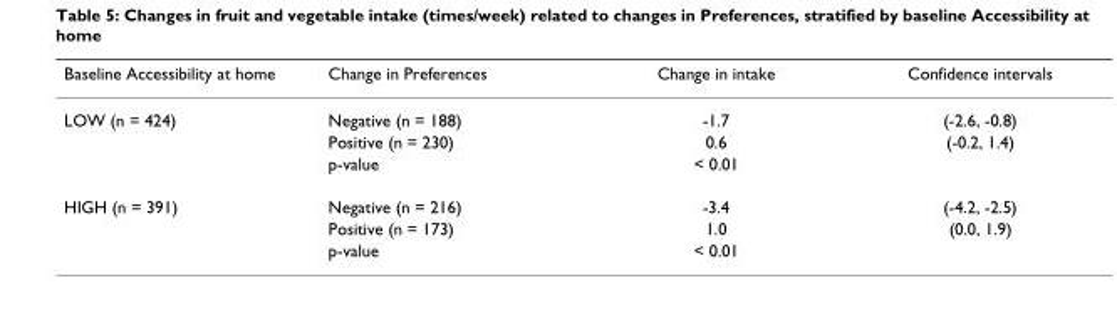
<table><thead><tr><td>Baseline Accessibility at home</td><td>Change in Preferences</td><td>Change in intake</td><td>Confidence intervals</td></tr></thead><tbody><tr><td rowspan="3">LOW (n = 424)</td><td>Negative (n = 188)</td><td>-1.7</td><td>(-2.6, -0.8)</td></tr><tr><td>Positive (n = 230)</td><td>0.6</td><td>(-0.2, 1.4)</td></tr><tr><td>p-value</td><td>&lt; 0.01</td><td></td></tr><tr><td rowspan="3">HIGH (n = 391)</td><td>Negative (n = 216)</td><td>-3.4</td><td>(-4.2, -2.5)</td></tr><tr><td>Positive (n = 173)</td><td>1.0</td><td>(0.0, 1.9)</td></tr><tr><td>p-value</td><td>&lt; 0.01</td><td></td></tr></tbody></table>